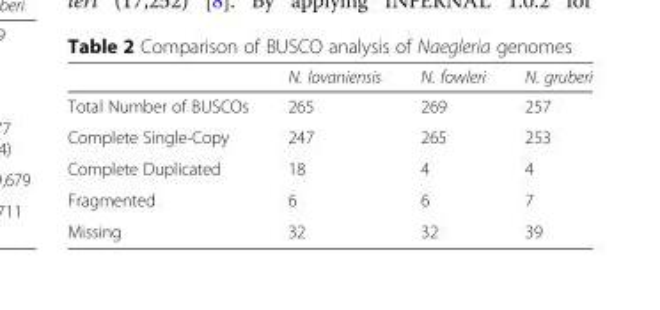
<table><thead><tr><td></td><td>N. lovaniensis</td><td>N. fowleri</td><td>N. gruberi</td></tr></thead><tbody><tr><td>Total Number of BUSCOs</td><td>265</td><td>269</td><td>257</td></tr><tr><td>Complete Single-Copy</td><td>247</td><td>265</td><td>253</td></tr><tr><td>Complete Duplicated</td><td>18</td><td>4</td><td>4</td></tr><tr><td>Fragmented</td><td>6</td><td>6</td><td>7</td></tr><tr><td>Missing</td><td>32</td><td>32</td><td>39</td></tr></tbody></table>